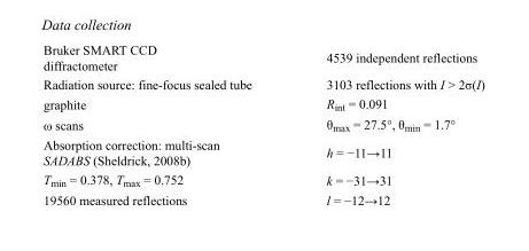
<table><tbody><tr><td>Bruker SMART CCD diffractometer</td><td>4539 independent reflections</td></tr><tr><td>Radiation source: fine-focus sealed tube</td><td>3103 reflections with I &gt; 2σ(I)</td></tr><tr><td>graphite</td><td>R<sub>int</sub> = 0.091</td></tr><tr><td>ω scans</td><td>θ<sub>max</sub> = 27.5°, θ<sub>min</sub> = 1.7°</td></tr><tr><td>Absorption correction: multi-scan SADABS (Sheldrick, 2008b)</td><td>h = −11→11</td></tr><tr><td>T<sub>min</sub> = 0.378, T<sub>max</sub> = 0.752</td><td>k = −31→31</td></tr><tr><td>19560 measured reflections</td><td>l = −12→12</td></tr></tbody></table>